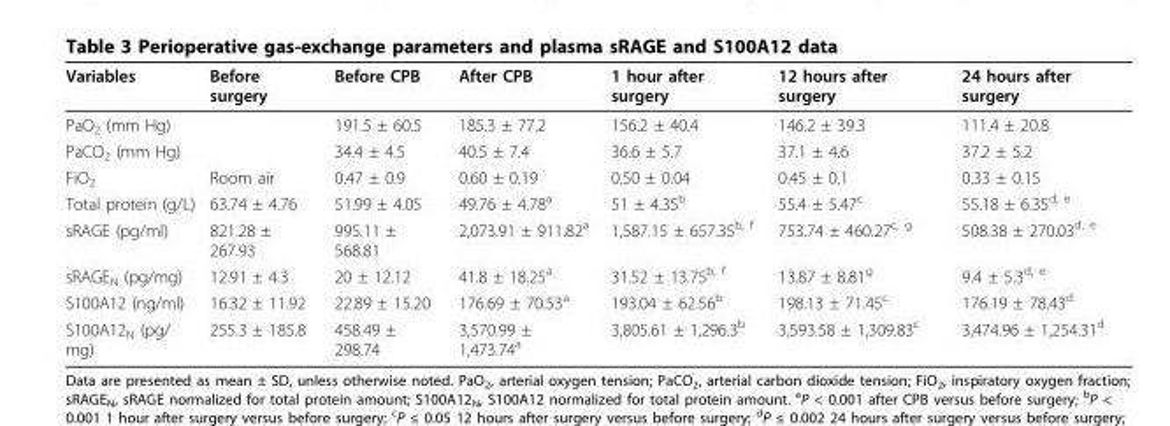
<table><thead><tr><td>Variables</td><td>Before surgery</td><td>Before CPB</td><td>After CPB</td><td>1 hour after surgery</td><td>12 hours after surgery</td><td>24 hours after surgery</td></tr></thead><tbody><tr><td>PaO<sub>2</sub> (mm Hg)</td><td></td><td>191.5 ± 60.5</td><td>185.3 ± 77.2</td><td>156.2 ± 40.4</td><td>146.2 ± 39.3</td><td>111.4 ± 20.8</td></tr><tr><td>PaCO<sub>2</sub> (mm Hg)</td><td></td><td>34.4 ± 4.5</td><td>40.5 ± 7.4</td><td>36.6 ± 5.7</td><td>37.1 ± 4.6</td><td>37.2 ± 5.2</td></tr><tr><td>FiO<sub>2</sub></td><td>Room air</td><td>0.47 ± 0.9</td><td>0.60 ± 0.19</td><td>0.50 ± 0.04</td><td>0.45 ± 0.1</td><td>0.33 ± 0.15</td></tr><tr><td>Total protein (g/L)</td><td>63.74 ± 4.76</td><td>51.99 ± 4.05</td><td>49.76 ± 4.78<sup>a</sup></td><td>51 ± 4.35<sup>b</sup></td><td>55.4 ± 5.47<sup>c</sup></td><td>55.18 ± 6.35<sup>d, e</sup></td></tr><tr><td>sRAGE (pg/ml)</td><td>821.28 ± 267.93</td><td>995.11 ± 568.81</td><td>2,073.91 ± 911.82<sup>a</sup></td><td>1,587.15 ± 657.35<sup>b, f</sup></td><td>753.74 ± 460.27<sup>c, g</sup></td><td>508.38 ± 270.03<sup>d, e</sup></td></tr><tr><td>sRAGE<sub>N</sub> (pg/mg)</td><td>12.91 ± 4.3</td><td>20 ± 12.12</td><td>41.8 ± 18.25<sup>a</sup></td><td>31.52 ± 13.75<sup>b, f</sup></td><td>13.87 ± 8.81<sup>g</sup></td><td>9.4 ± 5.3<sup>d, e</sup></td></tr><tr><td>S100A12 (ng/ml)</td><td>16.32 ± 11.92</td><td>22.89 ± 15.20</td><td>176.69 ± 70.53<sup>a</sup></td><td>193.04 ± 62.56<sup>b</sup></td><td>198.13 ± 71.45<sup>c</sup></td><td>176.19 ± 78.43<sup>d</sup></td></tr><tr><td>S100A12<sub>N</sub> (pg/ mg)</td><td>255.3 ± 185.8</td><td>458.49 ± 298.74</td><td>3,570.99 ± 1,473.74<sup>a</sup></td><td>3,805.61 ± 1,296.3<sup>b</sup></td><td>3,593.58 ± 1,309.83<sup>c</sup></td><td>3,474.96 ± 1,254.31<sup>d</sup></td></tr></tbody></table>